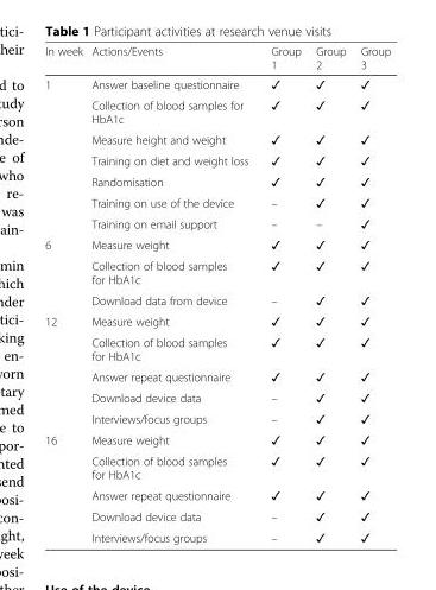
<table><thead><tr><td>In week</td><td>Actions/Events</td><td>Group 1</td><td>Group 2</td><td>Group 3</td></tr></thead><tbody><tr><td rowspan="7">1</td><td>Answer baseline questionnaire</td><td>✓</td><td>✓</td><td>✓</td></tr><tr><td>Collection of blood samples for HbA1c</td><td>✓</td><td>✓</td><td>✓</td></tr><tr><td>Measure height and weight</td><td>✓</td><td>✓</td><td>✓</td></tr><tr><td>Training on diet and weight loss</td><td>✓</td><td>✓</td><td>✓</td></tr><tr><td>Randomisation</td><td>✓</td><td>✓</td><td>✓</td></tr><tr><td>Training on use of the device</td><td>–</td><td>✓</td><td>✓</td></tr><tr><td>Training on email support</td><td>–</td><td>–</td><td>✓</td></tr><tr><td rowspan="3">6</td><td>Measure weight</td><td>✓</td><td>✓</td><td>✓</td></tr><tr><td>Collection of blood samples for HbA1c</td><td>✓</td><td>✓</td><td>✓</td></tr><tr><td>Download data from device</td><td>–</td><td>✓</td><td>✓</td></tr><tr><td rowspan="5">12</td><td>Measure weight</td><td>✓</td><td>✓</td><td>✓</td></tr><tr><td>Collection of blood samples for HbA1c</td><td>✓</td><td>✓</td><td>✓</td></tr><tr><td>Answer repeat questionnaire</td><td>✓</td><td>✓</td><td>✓</td></tr><tr><td>Download device data</td><td>–</td><td>✓</td><td>✓</td></tr><tr><td>Interviews/focus groups</td><td>–</td><td>✓</td><td>✓</td></tr><tr><td rowspan="5">16</td><td>Measure weight</td><td>✓</td><td>✓</td><td>✓</td></tr><tr><td>Collection of blood samples for HbA1c</td><td>✓</td><td>✓</td><td>✓</td></tr><tr><td>Answer repeat questionnaire</td><td>✓</td><td>✓</td><td>✓</td></tr><tr><td>Download device data</td><td>–</td><td>✓</td><td>✓</td></tr><tr><td>Interviews/focus groups</td><td>–</td><td>✓</td><td>✓</td></tr></tbody></table>